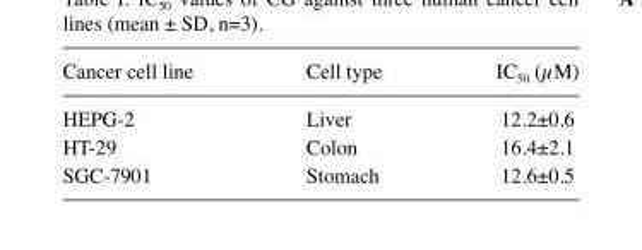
<table><thead><tr><td>Cancer cell line</td><td>Cell type</td><td>IC<sub>50</sub> (µM)</td></tr></thead><tbody><tr><td>HEPG-2</td><td>Liver</td><td>12.2±0.6</td></tr><tr><td>HT-29</td><td>Colon</td><td>16.4±2.1</td></tr><tr><td>SGC-7901</td><td>Stomach</td><td>12.6±0.5</td></tr></tbody></table>